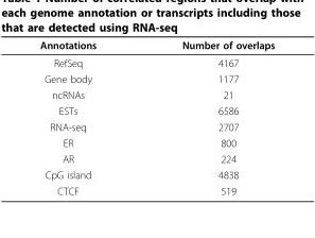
<table><thead><tr><td>Annotations</td><td>Number of overlaps</td></tr></thead><tbody><tr><td>RefSeq</td><td>4167</td></tr><tr><td>Gene body</td><td>1177</td></tr><tr><td>ncRNAs</td><td>21</td></tr><tr><td>ESTs</td><td>6586</td></tr><tr><td>RNA-seq</td><td>2707</td></tr><tr><td>ER</td><td>800</td></tr><tr><td>AR</td><td>224</td></tr><tr><td>CpG island</td><td>4838</td></tr><tr><td>CTCF</td><td>519</td></tr></tbody></table>